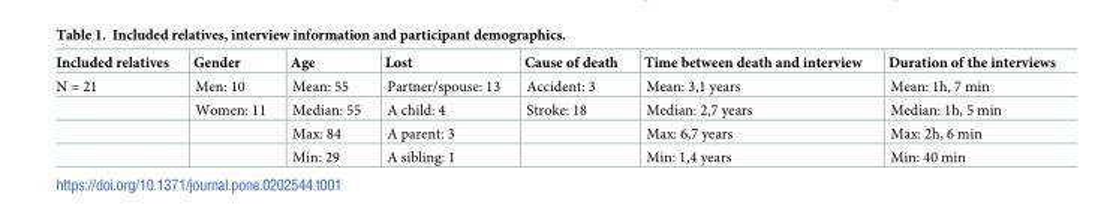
<table><thead><tr><td>Included relatives</td><td>Gender</td><td>Age</td><td>Lost</td><td>Cause of death</td><td>Time between death and interview</td><td>Duration of the interviews</td></tr></thead><tbody><tr><td rowspan="4">N = 21</td><td>Men: 10</td><td>Mean: 55</td><td>Partner/spouse: 13</td><td>Accident: 3</td><td>Mean: 3,1 years</td><td>Mean: 1h, 7 min</td></tr><tr><td>Women: 11</td><td>Median: 55</td><td>A child: 4</td><td>Stroke: 18</td><td>Median: 2,7 years</td><td>Median: 1h, 5 min</td></tr><tr><td></td><td>Max: 84</td><td>A parent: 3</td><td></td><td>Max: 6,7 years</td><td>Max: 2h, 6 min</td></tr><tr><td></td><td>Min: 29</td><td>A sibling: 1</td><td></td><td>Min: 1,4 years</td><td>Min: 40 min</td></tr></tbody></table>